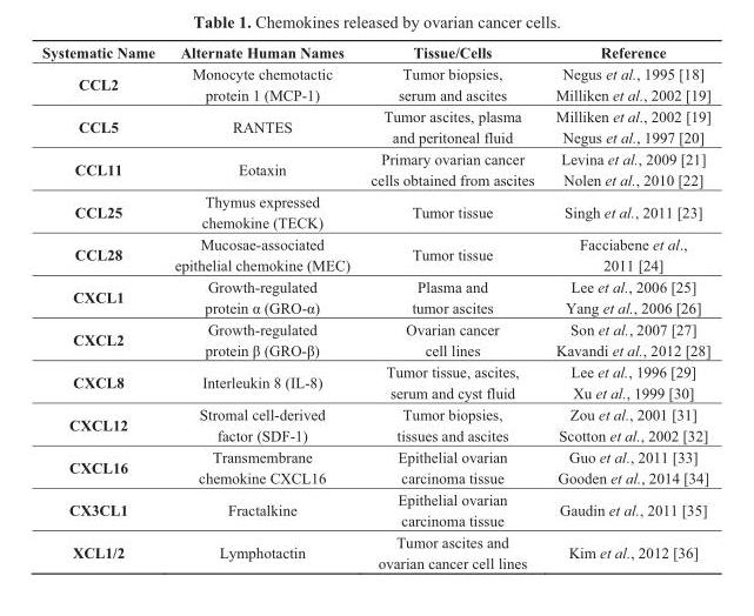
<table><thead><tr><td>Systematic Name</td><td>Alternate Human Names</td><td>Tissue/Cells</td><td>Reference</td></tr></thead><tbody><tr><td>CCL2</td><td>Monocyte chemotactic protein 1 (MCP-1)</td><td>Tumor biopsies, serum and ascites</td><td>Negus et al., 1995 [18] Milliken et al., 2002 [19]</td></tr><tr><td>CCL5</td><td>RANTES</td><td>Tumor ascites, plasma and peritoneal fluid</td><td>Milliken et al., 2002 [19] Negus et al., 1997 [20]</td></tr><tr><td>CCL11</td><td>Eotaxin</td><td>Primary ovarian cancer cells obtained from ascites</td><td>Levina et al., 2009 [21] Nolen et al., 2010 [22]</td></tr><tr><td>CCL25</td><td>Thymus expressed chemokine (TECK)</td><td>Tumor tissue</td><td>Singh et al., 2011 [23]</td></tr><tr><td>CCL28</td><td>Mucosae-associated epithelial chemokine (MEC)</td><td>Tumor tissue</td><td>Facciabene et al., 2011 [24]</td></tr><tr><td>CXCL1</td><td>Growth-regulated protein α (GRO-α)</td><td>Plasma and tumor ascites</td><td>Lee et al., 2006 [25] Yang et al., 2006 [26]</td></tr><tr><td>CXCL2</td><td>Growth-regulated protein β (GRO-β)</td><td>Ovarian cancer cell lines</td><td>Son et al., 2007 [27] Kavandi et al., 2012 [28]</td></tr><tr><td>CXCL8</td><td>Interleukin 8 (IL-8)</td><td>Tumor tissue, ascites, serum and cyst fluid</td><td>Lee et al., 1996 [29] Xu et al., 1999 [30]</td></tr><tr><td>CXCL12</td><td>Stromal cell-derived factor (SDF-1)</td><td>Tumor biopsies, tissues and ascites</td><td>Zou et al., 2001 [31] Scotton et al., 2002 [32]</td></tr><tr><td>CXCL16</td><td>Transmembrane chemokine CXCL16</td><td>Epithelial ovarian carcinoma tissue</td><td>Guo et al., 2011 [33] Gooden et al., 2014 [34]</td></tr><tr><td>CX3CL1</td><td>Fractalkine</td><td>Epithelial ovarian carcinoma tissue</td><td>Gaudin et al., 2011 [35]</td></tr><tr><td>XCL1/2</td><td>Lymphotactin</td><td>Tumor ascites and ovarian cancer cell lines</td><td>Kim et al., 2012 [36]</td></tr></tbody></table>